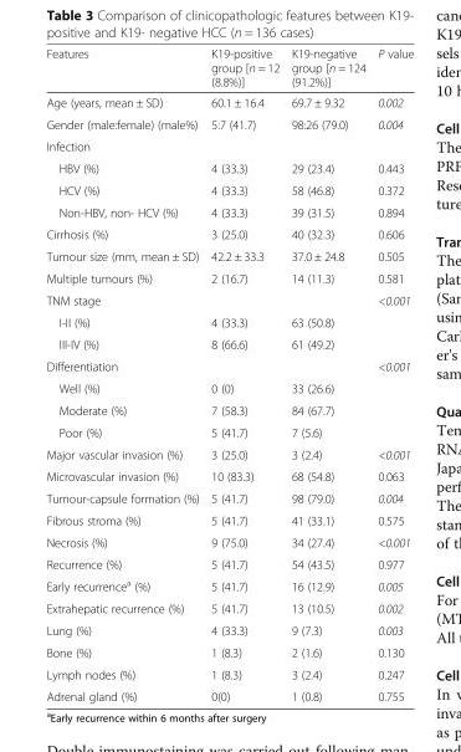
<table><thead><tr><td>Features</td><td>K19-positive group [n = 12 (8.8%)]</td><td>K19-negative group [n = 124 (91.2%)]</td><td>P value</td></tr></thead><tbody><tr><td>Age (years, mean ± SD)</td><td>60.1 ± 16.4</td><td>69.7 ± 9.32</td><td>0.002</td></tr><tr><td>Gender (male:female) (male%)</td><td>5:7 (41.7)</td><td>98:26 (79.0)</td><td>0.004</td></tr><tr><td colspan="4">Infection</td></tr><tr><td>HBV (%)</td><td>4 (33.3)</td><td>29 (23.4)</td><td>0.443</td></tr><tr><td>HCV (%)</td><td>4 (33.3)</td><td>58 (46.8)</td><td>0.372</td></tr><tr><td>Non-HBV, non- HCV (%)</td><td>4 (33.3)</td><td>39 (31.5)</td><td>0.894</td></tr><tr><td>Cirrhosis (%)</td><td>3 (25.0)</td><td>40 (32.3)</td><td>0.606</td></tr><tr><td>Tumour size (mm, mean ± SD)</td><td>42.2 ± 33.3</td><td>37.0 ± 24.8</td><td>0.505</td></tr><tr><td>Multiple tumours (%)</td><td>2 (16.7)</td><td>14 (11.3)</td><td>0.581</td></tr><tr><td>TNM stage</td><td></td><td></td><td>&lt;0.001</td></tr><tr><td>I-II (%)</td><td>4 (33.3)</td><td>63 (50.8)</td><td></td></tr><tr><td>III-IV (%)</td><td>8 (66.6)</td><td>61 (49.2)</td><td></td></tr><tr><td>Differentiation</td><td></td><td></td><td>&lt;0.001</td></tr><tr><td>Well (%)</td><td>0 (0)</td><td>33 (26.6)</td><td></td></tr><tr><td>Moderate (%)</td><td>7 (58.3)</td><td>84 (67.7)</td><td></td></tr><tr><td>Poor (%)</td><td>5 (41.7)</td><td>7 (5.6)</td><td></td></tr><tr><td>Major vascular invasion (%)</td><td>3 (25.0)</td><td>3 (2.4)</td><td>&lt;0.001</td></tr><tr><td>Microvascular invasion (%)</td><td>10 (83.3)</td><td>68 (54.8)</td><td>0.063</td></tr><tr><td>Tumour-capsule formation (%)</td><td>5 (41.7)</td><td>98 (79.0)</td><td>0.004</td></tr><tr><td>Fibrous stroma (%)</td><td>5 (41.7)</td><td>41 (33.1)</td><td>0.575</td></tr><tr><td>Necrosis (%)</td><td>9 (75.0)</td><td>34 (27.4)</td><td>&lt;0.001</td></tr><tr><td>Recurrence (%)</td><td>5 (41.7)</td><td>54 (43.5)</td><td>0.977</td></tr><tr><td>Early recurrence<sup>a</sup> (%)</td><td>5 (41.7)</td><td>16 (12.9)</td><td>0.005</td></tr><tr><td>Extrahepatic recurrence (%)</td><td>5 (41.7)</td><td>13 (10.5)</td><td>0.002</td></tr><tr><td>Lung (%)</td><td>4 (33.3)</td><td>9 (7.3)</td><td>0.003</td></tr><tr><td>Bone (%)</td><td>1 (8.3)</td><td>2 (1.6)</td><td>0.130</td></tr><tr><td>Lymph nodes (%)</td><td>1 (8.3)</td><td>3 (2.4)</td><td>0.247</td></tr><tr><td>Adrenal gland (%)</td><td>0(0)</td><td>1 (0.8)</td><td>0.755</td></tr></tbody></table>